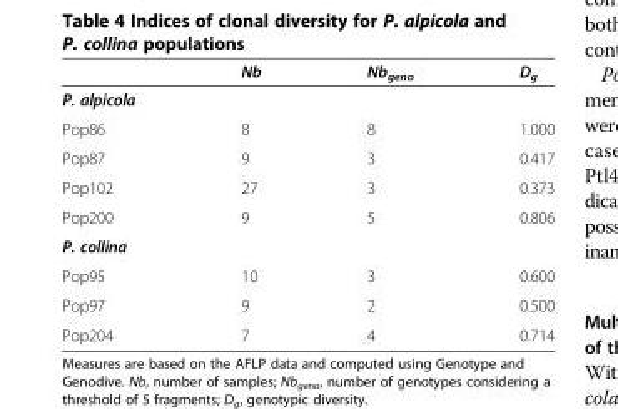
<table><thead><tr><td></td><td>Nb</td><td>Nb<sub>geno</sub></td><td>D<sub>g</sub></td></tr></thead><tbody><tr><td colspan="4">P. alpicola</td></tr><tr><td>Pop86</td><td>8</td><td>8</td><td>1.000</td></tr><tr><td>Pop87</td><td>9</td><td>3</td><td>0.417</td></tr><tr><td>Pop102</td><td>27</td><td>3</td><td>0.373</td></tr><tr><td>Pop200</td><td>9</td><td>5</td><td>0.806</td></tr><tr><td colspan="4">P. collina</td></tr><tr><td>Pop95</td><td>10</td><td>3</td><td>0.600</td></tr><tr><td>Pop97</td><td>9</td><td>2</td><td>0.500</td></tr><tr><td>Pop204</td><td>7</td><td>4</td><td>0.714</td></tr></tbody></table>